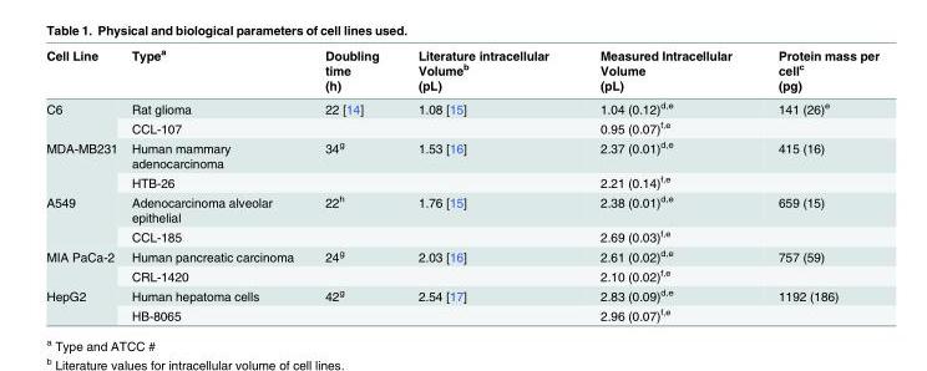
<table><thead><tr><td rowspan="2">Cell Line</td><td rowspan="2">Type<sup>a</sup></td><td rowspan="2">Doubling time (h)</td><td rowspan="2">Literature intracellular Volume<sup>b</sup> (pL)</td><td rowspan="2">Measured Intracellular Volume (pL)</td><td rowspan="2">Protein mass per cell<sup>c</sup> (pg)</td></tr><tr></tr></thead><tbody><tr><td rowspan="2">C6</td><td>Rat glioma</td><td>22 [14]</td><td>1.08 [15]</td><td>1.04 (0.12)<sup>d,e</sup></td><td>141 (26)<sup>e</sup></td></tr><tr><td>CCL-107</td><td></td><td></td><td>0.95 (0.07)<sup>f,e</sup></td><td></td></tr><tr><td rowspan="2">MDA-MB231</td><td>Human mammary adenocarcinoma</td><td>34<sup>g</sup></td><td>1.53 [16]</td><td>2.37 (0.01)<sup>d,e</sup></td><td>415 (16)</td></tr><tr><td>HTB-26</td><td></td><td></td><td>2.21 (0.14)<sup>f,e</sup></td><td></td></tr><tr><td rowspan="2">A549</td><td>Adenocarcinoma alveolar epithelial</td><td>22<sup>h</sup></td><td>1.76 [15]</td><td>2.38 (0.01)<sup>d,e</sup></td><td>659 (15)</td></tr><tr><td>CCL-185</td><td></td><td></td><td>2.69 (0.03)<sup>f,e</sup></td><td></td></tr><tr><td rowspan="2">MIA PaCa-2</td><td>Human pancreatic carcinoma</td><td>24<sup>g</sup></td><td>2.03 [16]</td><td>2.61 (0.02)<sup>d,e</sup></td><td>757 (59)</td></tr><tr><td>CRL-1420</td><td></td><td></td><td>2.10 (0.02)<sup>f,e</sup></td><td></td></tr><tr><td rowspan="2">HepG2</td><td>Human hepatoma cells</td><td>42<sup>g</sup></td><td>2.54 [17]</td><td>2.83 (0.09)<sup>d,e</sup></td><td>1192 (186)</td></tr><tr><td>HB-8065</td><td></td><td></td><td>2.96 (0.07)<sup>f,e</sup></td><td></td></tr></tbody></table>